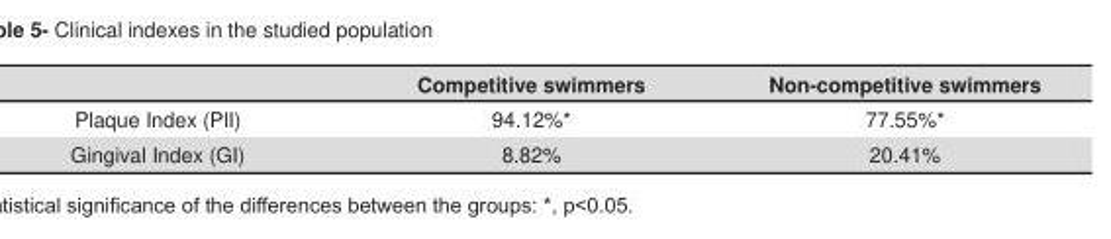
<table><thead><tr><td></td><td>Competitive swimmers</td><td>Non-competitive swimmers</td></tr></thead><tbody><tr><td>Plaque Index (PlI)</td><td>94.12%*</td><td>77.55%*</td></tr><tr><td>Gingival Index (GI)</td><td>8.82%</td><td>20.41%</td></tr></tbody></table>